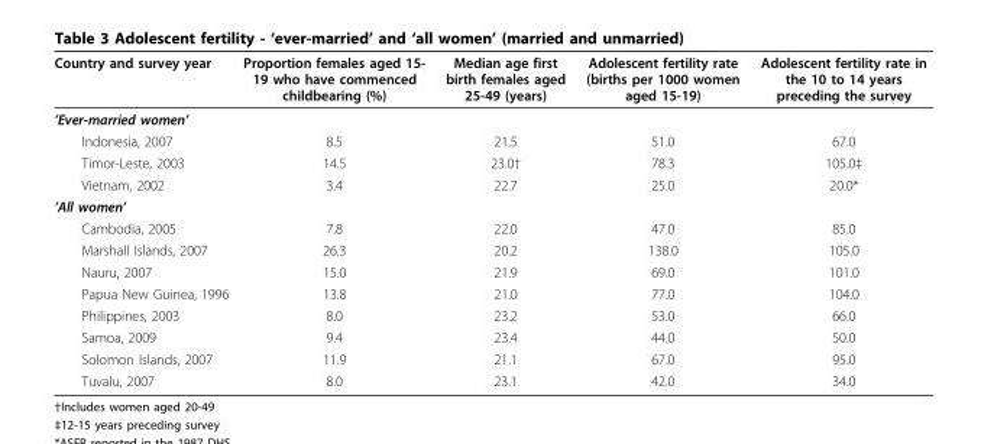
<table><thead><tr><td>Country and survey year</td><td>Proportion females aged 15- 19 who have commenced childbearing (%)</td><td>Median age first birth females aged 25-49 (years)</td><td>Adolescent fertility rate (births per 1000 women aged 15-19)</td><td>Adolescent fertility rate in the 10 to 14 years preceding the survey</td></tr></thead><tbody><tr><td colspan="5">’Ever-married women’</td></tr><tr><td>Indonesia, 2007</td><td>8.5</td><td>21.5</td><td>51.0</td><td>67.0</td></tr><tr><td>Timor-Leste, 2003</td><td>14.5</td><td>23.0†</td><td>78.3</td><td>105.0‡</td></tr><tr><td>Vietnam, 2002</td><td>3.4</td><td>22.7</td><td>25.0</td><td>20.0*</td></tr><tr><td colspan="5">’All women’</td></tr><tr><td>Cambodia, 2005</td><td>7.8</td><td>22.0</td><td>47.0</td><td>85.0</td></tr><tr><td>Marshall Islands, 2007</td><td>26.3</td><td>20.2</td><td>138.0</td><td>105.0</td></tr><tr><td>Nauru, 2007</td><td>15.0</td><td>21.9</td><td>69.0</td><td>101.0</td></tr><tr><td>Papua New Guinea, 1996</td><td>13.8</td><td>21.0</td><td>77.0</td><td>104.0</td></tr><tr><td>Philippines, 2003</td><td>8.0</td><td>23.2</td><td>53.0</td><td>66.0</td></tr><tr><td>Samoa, 2009</td><td>9.4</td><td>23.4</td><td>44.0</td><td>50.0</td></tr><tr><td>Solomon Islands, 2007</td><td>11.9</td><td>21.1</td><td>67.0</td><td>95.0</td></tr><tr><td>Tuvalu, 2007</td><td>8.0</td><td>23.1</td><td>42.0</td><td>34.0</td></tr></tbody></table>